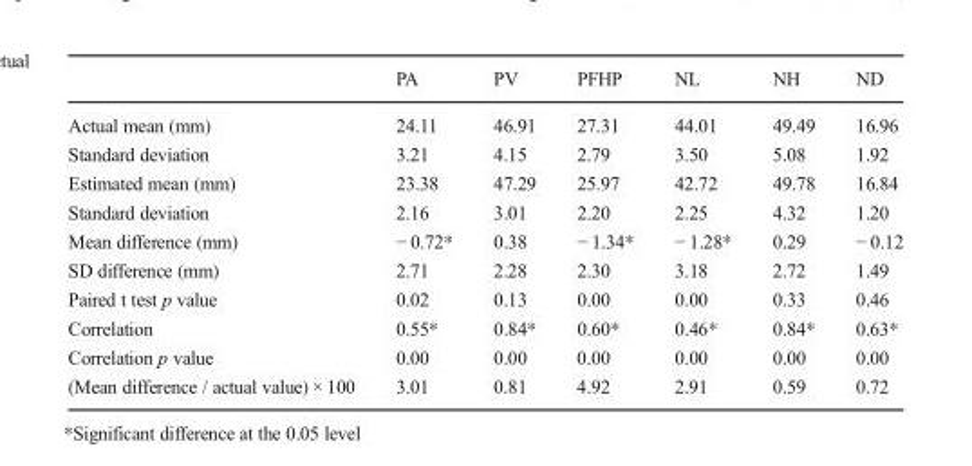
<table><thead><tr><td></td><td>PA</td><td>PV</td><td>PFHP</td><td>NL</td><td>NH</td><td>ND</td></tr></thead><tbody><tr><td>Actual mean (mm)</td><td>24.11</td><td>46.91</td><td>27.31</td><td>44.01</td><td>49.49</td><td>16.96</td></tr><tr><td>Standard deviation</td><td>3.21</td><td>4.15</td><td>2.79</td><td>3.50</td><td>5.08</td><td>1.92</td></tr><tr><td>Estimated mean (mm)</td><td>23.38</td><td>47.29</td><td>25.97</td><td>42.72</td><td>49.78</td><td>16.84</td></tr><tr><td>Standard deviation</td><td>2.16</td><td>3.01</td><td>2.20</td><td>2.25</td><td>4.32</td><td>1.20</td></tr><tr><td>Mean difference (mm)</td><td>− 0.72*</td><td>0.38</td><td>− 1.34*</td><td>− 1.28*</td><td>0.29</td><td>− 0.12</td></tr><tr><td>SD difference (mm)</td><td>2.71</td><td>2.28</td><td>2.30</td><td>3.18</td><td>2.72</td><td>1.49</td></tr><tr><td>Paired t test p value</td><td>0.02</td><td>0.13</td><td>0.00</td><td>0.00</td><td>0.33</td><td>0.46</td></tr><tr><td>Correlation</td><td>0.55*</td><td>0.84*</td><td>0.60*</td><td>0.46*</td><td>0.84*</td><td>0.63*</td></tr><tr><td>Correlation p value</td><td>0.00</td><td>0.00</td><td>0.00</td><td>0.00</td><td>0.00</td><td>0.00</td></tr><tr><td>(Mean difference / actual value) × 100</td><td>3.01</td><td>0.81</td><td>4.92</td><td>2.91</td><td>0.59</td><td>0.72</td></tr></tbody></table>